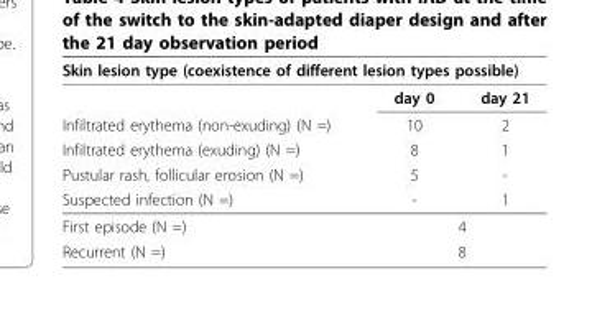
<table><thead><tr><td colspan="3">Skin lesion type (coexistence of different lesion types possible)</td></tr><tr><td></td><td>day 0</td><td>day 21</td></tr></thead><tbody><tr><td>Infiltrated erythema (non-exuding) (N =)</td><td>10</td><td>2</td></tr><tr><td>Infiltrated erythema (exuding) (N =)</td><td>8</td><td>1</td></tr><tr><td>Pustular rash, follicular erosion (N =)</td><td>5</td><td>-</td></tr><tr><td>Suspected infection (N =)</td><td>-</td><td>1</td></tr><tr><td>First episode (N =)</td><td colspan="2">4</td></tr><tr><td>Recurrent (N =)</td><td colspan="2">8</td></tr></tbody></table>